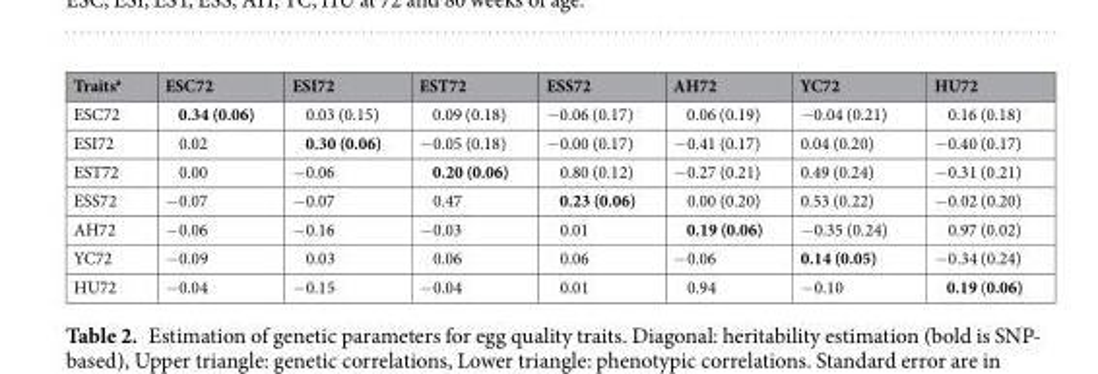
<table><thead><tr><td>Traits<sup>a</sup></td><td>ESC72</td><td>ESI72</td><td>EST72</td><td>ESS72</td><td>AH72</td><td>YC72</td><td>HU72</td></tr></thead><tbody><tr><td>ESC72</td><td>0.34 (0.06)</td><td>0.03 (0.15)</td><td>0.09 (0.18)</td><td>−0.06 (0.17)</td><td>0.06 (0.19)</td><td>−0.04 (0.21)</td><td>0.16 (0.18)</td></tr><tr><td>ESI72</td><td>0.02</td><td>0.30 (0.06)</td><td>−0.05 (0.18)</td><td>−0.00 (0.17)</td><td>−0.41 (0.17)</td><td>0.04 (0.20)</td><td>−0.40 (0.17)</td></tr><tr><td>EST72</td><td>0.00</td><td>−0.06</td><td>0.20 (0.06)</td><td>0.80 (0.12)</td><td>−0.27 (0.21)</td><td>0.49 (0.24)</td><td>−0.31 (0.21)</td></tr><tr><td>ESS72</td><td>−0.07</td><td>−0.07</td><td>0.47</td><td>0.23 (0.06)</td><td>0.00 (0.20)</td><td>0.53 (0.22)</td><td>−0.02 (0.20)</td></tr><tr><td>AH72</td><td>−0.06</td><td>−0.16</td><td>−0.03</td><td>0.01</td><td>0.19 (0.06)</td><td>−0.35 (0.24)</td><td>0.97 (0.02)</td></tr><tr><td>YC72</td><td>−0.09</td><td>0.03</td><td>0.06</td><td>0.06</td><td>−0.06</td><td>0.14 (0.05)</td><td>−0.34 (0.24)</td></tr><tr><td>HU72</td><td>−0.04</td><td>−0.15</td><td>−0.04</td><td>0.01</td><td>0.94</td><td>−0.10</td><td>0.19 (0.06)</td></tr></tbody></table>